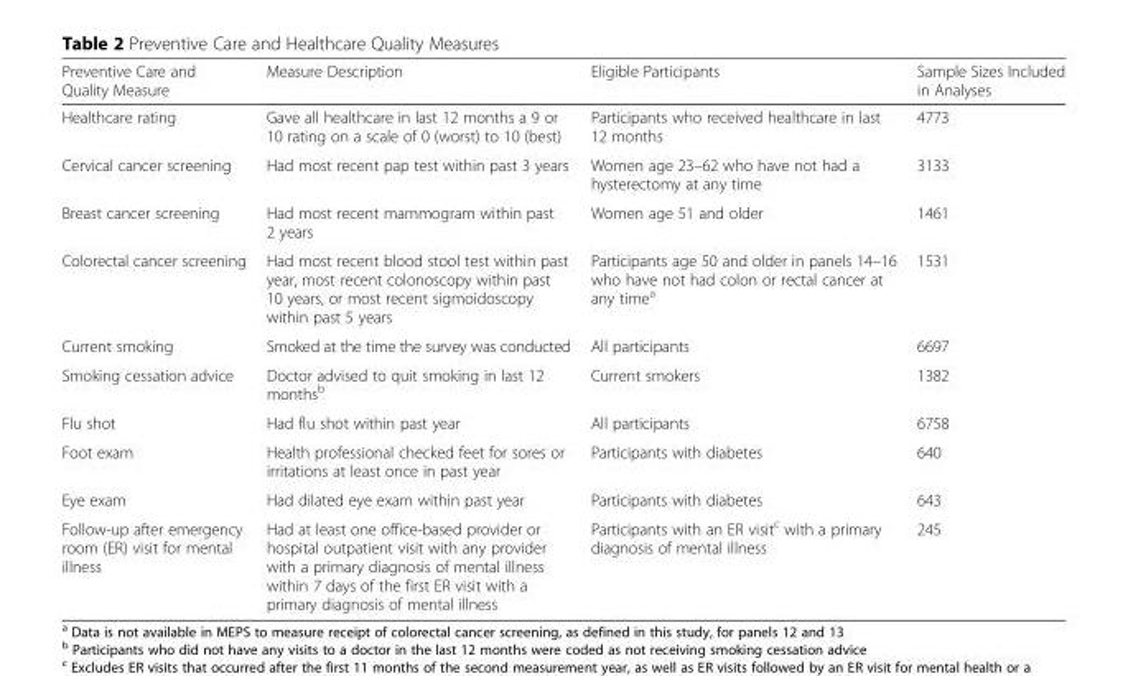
<table><thead><tr><td>Preventive Care and Quality Measure</td><td>Measure Description</td><td>Eligible Participants</td><td>Sample Sizes Included in Analyses</td></tr></thead><tbody><tr><td>Healthcare rating</td><td>Gave all healthcare in last 12 months a 9 or 10 rating on a scale of 0 (worst) to 10 (best)</td><td>Participants who received healthcare in last 12 months</td><td>4773</td></tr><tr><td>Cervical cancer screening</td><td>Had most recent pap test within past 3 years</td><td>Women age 23–62 who have not had a hysterectomy at any time</td><td>3133</td></tr><tr><td>Breast cancer screening</td><td>Had most recent mammogram within past 2 years</td><td>Women age 51 and older</td><td>1461</td></tr><tr><td>Colorectal cancer screening</td><td>Had most recent blood stool test within past year, most recent colonoscopy within past 10 years, or most recent sigmoidoscopy within past 5 years</td><td>Participants age 50 and older in panels 14–16 who have not had colon or rectal cancer at any time<sup>a</sup></td><td>1531</td></tr><tr><td>Current smoking</td><td>Smoked at the time the survey was conducted</td><td>All participants</td><td>6697</td></tr><tr><td>Smoking cessation advice</td><td>Doctor advised to quit smoking in last 12 months<sup>b</sup></td><td>Current smokers</td><td>1382</td></tr><tr><td>Flu shot</td><td>Had flu shot within past year</td><td>All participants</td><td>6758</td></tr><tr><td>Foot exam</td><td>Health professional checked feet for sores or irritations at least once in past year</td><td>Participants with diabetes</td><td>640</td></tr><tr><td>Eye exam</td><td>Had dilated eye exam within past year</td><td>Participants with diabetes</td><td>643</td></tr><tr><td>Follow-up after emergency room (ER) visit for mental illness</td><td>Had at least one office-based provider or hospital outpatient visit with any provider with a primary diagnosis of mental illness within 7 days of the first ER visit with a primary diagnosis of mental illness</td><td>Participants with an ER visit<sup>c</sup> with a primary diagnosis of mental illness</td><td>245</td></tr></tbody></table>